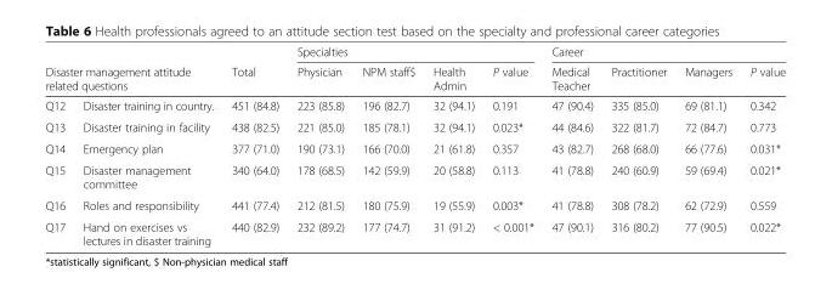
<table><thead><tr><td></td><td></td><td rowspan="2">Total</td><td colspan="4">Specialties</td><td colspan="4">Career</td></tr><tr><td colspan="2">Disaster management attitude related questions</td><td>Physician</td><td>NPM staff$</td><td>Health Admin</td><td>P value</td><td>Medical Teacher</td><td>Practitioner</td><td>Managers</td><td>P value</td></tr></thead><tbody><tr><td>Q12</td><td>Disaster training in country.</td><td>451 (84.8)</td><td>223 (85.8)</td><td>196 (82.7)</td><td>32 (94.1)</td><td>0.191</td><td>47 (90.4)</td><td>335 (85.0)</td><td>69 (81.1)</td><td>0.342</td></tr><tr><td>Q13</td><td>Disaster training in facility</td><td>438 (82.5)</td><td>221 (85.0)</td><td>185 (78.1)</td><td>32 (94.1)</td><td>0.023*</td><td>44 (84.6)</td><td>322 (81.7)</td><td>72 (84.7)</td><td>0.773</td></tr><tr><td>Q14</td><td>Emergency plan</td><td>377 (71.0)</td><td>190 (73.1)</td><td>166 (70.0)</td><td>21 (61.8)</td><td>0.357</td><td>43 (82.7)</td><td>268 (68.0)</td><td>66 (77.6)</td><td>0.031*</td></tr><tr><td>Q15</td><td>Disaster management committee</td><td>340 (64.0)</td><td>178 (68.5)</td><td>142 (59.9)</td><td>20 (58.8)</td><td>0.113</td><td>41 (78.8)</td><td>240 (60.9)</td><td>59 (69.4)</td><td>0.021*</td></tr><tr><td>Q16</td><td>Roles and responsibility</td><td>441 (77.4)</td><td>212 (81.5)</td><td>180 (75.9)</td><td>19 (55.9)</td><td>0.003*</td><td>41 (78.8)</td><td>308 (78.2)</td><td>62 (72.9)</td><td>0.559</td></tr><tr><td>Q17</td><td>Hand on exercises vs lectures in disaster training</td><td>440 (82.9)</td><td>232 (89.2)</td><td>177 (74.7)</td><td>31 (91.2)</td><td>&lt; 0.001*</td><td>47 (90.1)</td><td>316 (80.2)</td><td>77 (90.5)</td><td>0.022*</td></tr></tbody></table>